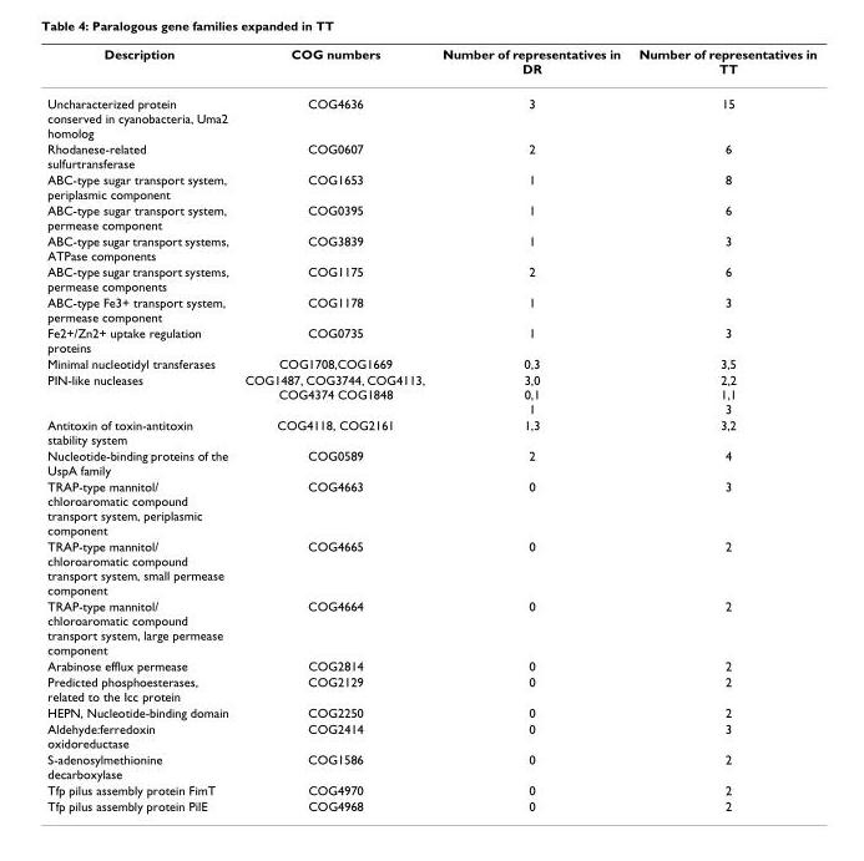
<table><thead><tr><td>Description</td><td>COG numbers</td><td>Number of representatives in DR</td><td>Number of representatives in TT</td></tr></thead><tbody><tr><td>Uncharacterized protein conserved in cyanobacteria, Uma2 homolog</td><td>COG4636</td><td>3</td><td>15</td></tr><tr><td>Rhodanese-related sulfurtransferase</td><td>COG0607</td><td>2</td><td>6</td></tr><tr><td>ABC-type sugar transport system, periplasmic component</td><td>COG1653</td><td>1</td><td>8</td></tr><tr><td>ABC-type sugar transport system, permease component</td><td>COG0395</td><td>1</td><td>6</td></tr><tr><td>ABC-type sugar transport systems, ATPase components</td><td>COG3839</td><td>1</td><td>3</td></tr><tr><td>ABC-type sugar transport systems, permease components</td><td>COG1175</td><td>2</td><td>6</td></tr><tr><td>ABC-type Fe3+ transport system, permease component</td><td>COG1178</td><td>1</td><td>3</td></tr><tr><td>Fe2+/Zn2+ uptake regulation proteins</td><td>COG0735</td><td>1</td><td>3</td></tr><tr><td>Minimal nucleotidyl transferases</td><td>COG1708,COG1669</td><td>0,3</td><td>3,5</td></tr><tr><td>PIN-like nucleases</td><td>COG1487, COG3744, COG4113, COG4374 COG1848</td><td>3,0 0,1 1</td><td>2,2 1,1 3</td></tr><tr><td>Antitoxin of toxin-antitoxin stability system</td><td>COG4118, COG2161</td><td>1,3</td><td>3,2</td></tr><tr><td>Nucleotide-binding proteins of the UspA family</td><td>COG0589</td><td>2</td><td>4</td></tr><tr><td>TRAP-type mannitol/ chloroaromatic compound transport system, periplasmic component</td><td>COG4663</td><td>0</td><td>3</td></tr><tr><td>TRAP-type mannitol/ chloroaromatic compound transport system, small permease component</td><td>COG4665</td><td>0</td><td>2</td></tr><tr><td>TRAP-type mannitol/ chloroaromatic compound transport system, large permease component</td><td>COG4664</td><td>0</td><td>2</td></tr><tr><td>Arabinose efflux permease</td><td>COG2814</td><td>0</td><td>2</td></tr><tr><td>Predicted phosphoesterases, related to the Icc protein</td><td>COG2129</td><td>0</td><td>2</td></tr><tr><td>HEPN, Nucleotide-binding domain</td><td>COG2250</td><td>0</td><td>2</td></tr><tr><td>Aldehyde:ferredoxin oxidoreductase</td><td>COG2414</td><td>0</td><td>3</td></tr><tr><td>S-adenosylmethionine decarboxylase</td><td>COG1586</td><td>0</td><td>2</td></tr><tr><td>Tfp pilus assembly protein FimT</td><td>COG4970</td><td>0</td><td>2</td></tr><tr><td>Tfp pilus assembly protein PilE</td><td>COG4968</td><td>0</td><td>2</td></tr></tbody></table>